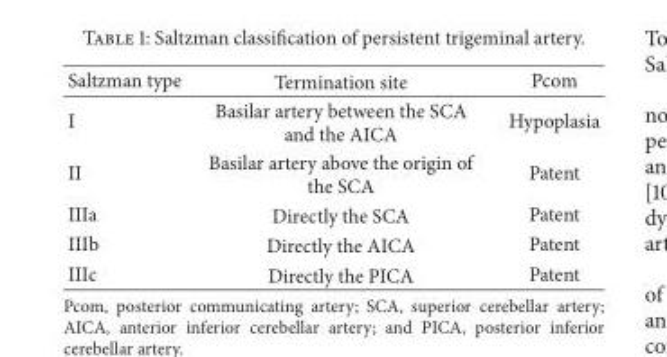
<table><thead><tr><td>Saltzman type</td><td>Termination site</td><td>Pcom</td></tr></thead><tbody><tr><td>I</td><td>Basilar artery between the SCA and the AICA</td><td>Hypoplasia</td></tr><tr><td>II</td><td>Basilar artery above the origin of the SCA</td><td>Patent</td></tr><tr><td>IIIa</td><td>Directly the SCA</td><td>Patent</td></tr><tr><td>IIIb</td><td>Directly the AICA</td><td>Patent</td></tr><tr><td>IIIc</td><td>Directly the PICA</td><td>Patent</td></tr></tbody></table>